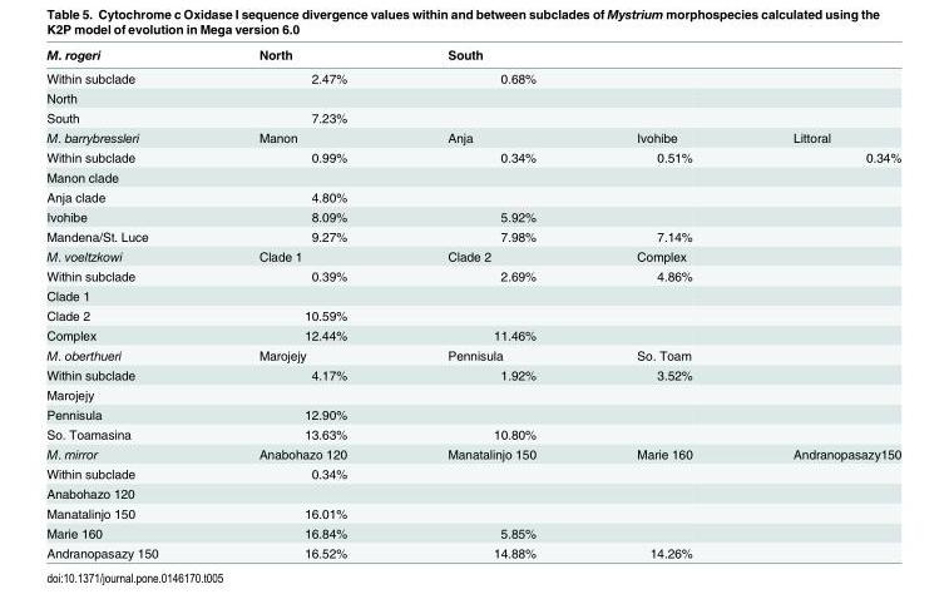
<table><thead><tr><td>M. rogeri</td><td>North</td><td>South</td><td></td><td></td></tr></thead><tbody><tr><td>Within subclade</td><td>2.47%</td><td>0.68%</td><td></td><td></td></tr><tr><td colspan="5">North</td></tr><tr><td>South</td><td>7.23%</td><td></td><td></td><td></td></tr><tr><td>M. barrybressleri</td><td>Manon</td><td>Anja</td><td>Ivohibe</td><td>Littoral</td></tr><tr><td>Within subclade</td><td>0.99%</td><td>0.34%</td><td>0.51%</td><td>0.34%</td></tr><tr><td colspan="5">Manon clade</td></tr><tr><td>Anja clade</td><td>4.80%</td><td></td><td></td><td></td></tr><tr><td>Ivohibe</td><td>8.09%</td><td>5.92%</td><td></td><td></td></tr><tr><td>Mandena/St. Luce</td><td>9.27%</td><td>7.98%</td><td>7.14%</td><td></td></tr><tr><td>M. voeltzkowi</td><td>Clade 1</td><td>Clade 2</td><td>Complex</td><td></td></tr><tr><td>Within subclade</td><td>0.39%</td><td>2.69%</td><td>4.86%</td><td></td></tr><tr><td colspan="5">Clade 1</td></tr><tr><td>Clade 2</td><td>10.59%</td><td></td><td></td><td></td></tr><tr><td>Complex</td><td>12.44%</td><td>11.46%</td><td></td><td></td></tr><tr><td>M. oberthueri</td><td>Marojejy</td><td>Pennisula</td><td>So. Toam</td><td></td></tr><tr><td>Within subclade</td><td>4.17%</td><td>1.92%</td><td>3.52%</td><td></td></tr><tr><td colspan="5">Marojejy</td></tr><tr><td>Pennisula</td><td>12.90%</td><td></td><td></td><td></td></tr><tr><td>So. Toamasina</td><td>13.63%</td><td>10.80%</td><td></td><td></td></tr><tr><td>M. mirror</td><td>Anabohazo 120</td><td>Manatalinjo 150</td><td>Marie 160</td><td>Andranopasazy150</td></tr><tr><td>Within subclade</td><td>0.34%</td><td></td><td></td><td></td></tr><tr><td colspan="5">Anabohazo 120</td></tr><tr><td>Manatalinjo 150</td><td>16.01%</td><td></td><td></td><td></td></tr><tr><td>Marie 160</td><td>16.84%</td><td>5.85%</td><td></td><td></td></tr><tr><td>Andranopasazy 150</td><td>16.52%</td><td>14.88%</td><td>14.26%</td><td></td></tr></tbody></table>